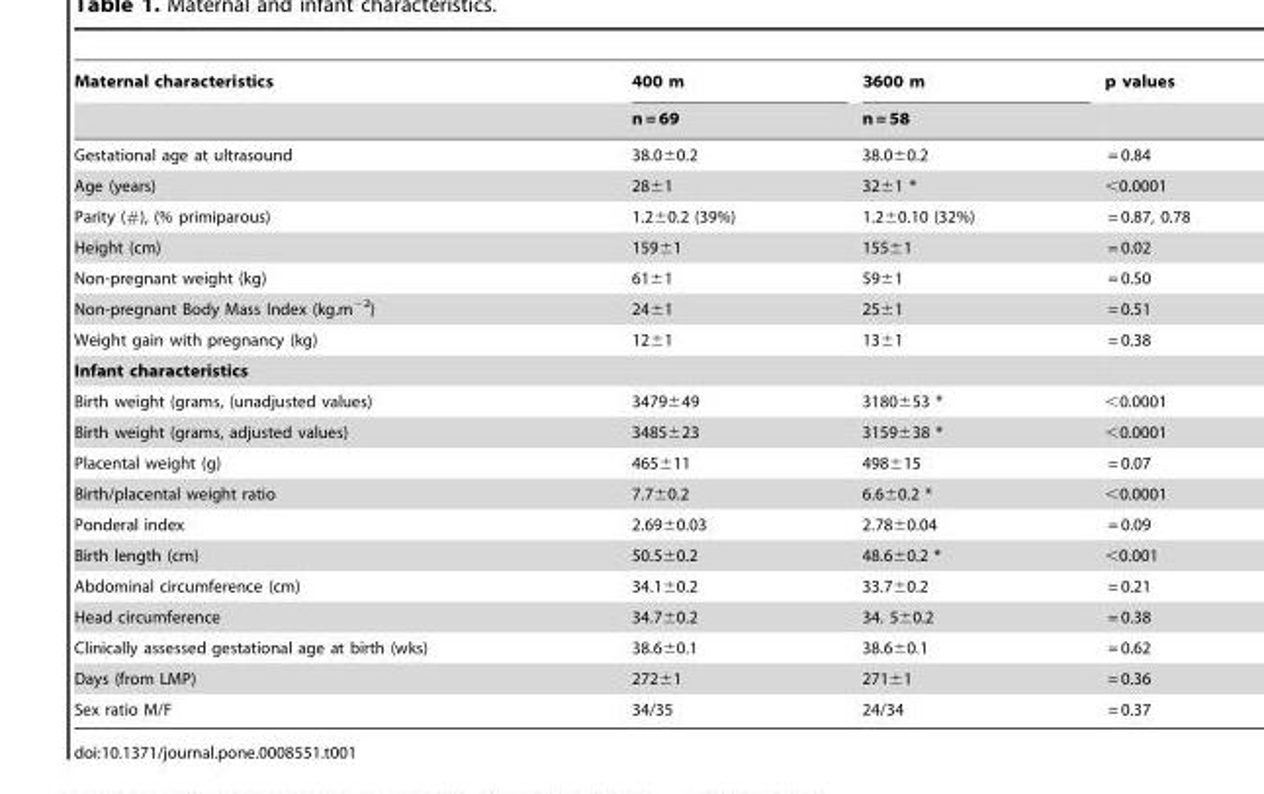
<table><thead><tr><td rowspan="2">Maternal characteristics</td><td rowspan="2">400 m n = 69</td><td rowspan="2">3600 m n = 58</td><td rowspan="2">p values</td></tr><tr></tr></thead><tbody><tr><td>Gestational age at ultrasound</td><td>38.0±0.2</td><td>38.0±0.2</td><td>= 0.84</td></tr><tr><td>Age (years)</td><td>28±1</td><td>32±1 *</td><td>&lt;0.0001</td></tr><tr><td>Parity (#), (% primiparous)</td><td>1.2±0.2 (39%)</td><td>1.2±0.10 (32%)</td><td>= 0.87, 0.78</td></tr><tr><td>Height (cm)</td><td>159±1</td><td>155±1</td><td>= 0.02</td></tr><tr><td>Non-pregnant weight (kg)</td><td>61±1</td><td>59±1</td><td>= 0.50</td></tr><tr><td>Non-pregnant Body Mass Index (kg.m<sup>−2</sup>)</td><td>24±1</td><td>25±1</td><td>= 0.51</td></tr><tr><td>Weight gain with pregnancy (kg)</td><td>12±1</td><td>13±1</td><td>= 0.38</td></tr><tr><td colspan="4">Infant characteristics</td></tr><tr><td>Birth weight (grams, (unadjusted values)</td><td>3479±49</td><td>3180±53 *</td><td>&lt;0.0001</td></tr><tr><td>Birth weight (grams, adjusted values)</td><td>3485±23</td><td>3159±38 *</td><td>&lt;0.0001</td></tr><tr><td>Placental weight (g)</td><td>465±11</td><td>498±15</td><td>= 0.07</td></tr><tr><td>Birth/placental weight ratio</td><td>7.7±0.2</td><td>6.6±0.2 *</td><td>&lt;0.0001</td></tr><tr><td>Ponderal index</td><td>2.69±0.03</td><td>2.78±0.04</td><td>= 0.09</td></tr><tr><td>Birth length (cm)</td><td>50.5±0.2</td><td>48.6±0.2 *</td><td>&lt;0.001</td></tr><tr><td>Abdominal circumference (cm)</td><td>34.1±0.2</td><td>33.7±0.2</td><td>= 0.21</td></tr><tr><td>Head circumference</td><td>34.7±0.2</td><td>34. 5±0.2</td><td>= 0.38</td></tr><tr><td>Clinically assessed gestational age at birth (wks)</td><td>38.6±0.1</td><td>38.6±0.1</td><td>= 0.62</td></tr><tr><td>Days (from LMP)</td><td>272±1</td><td>271±1</td><td>= 0.36</td></tr><tr><td>Sex ratio M/F</td><td>34/35</td><td>24/34</td><td>= 0.37</td></tr></tbody></table>